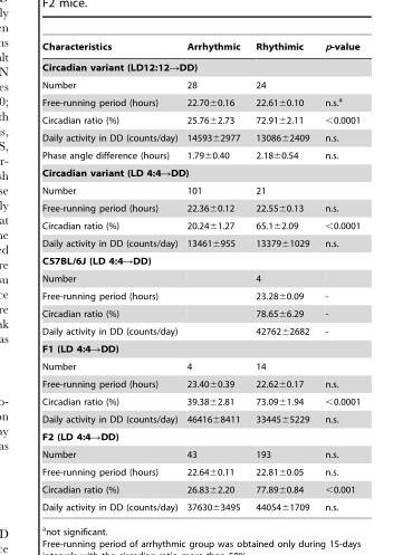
<table><thead><tr><td>Characteristics</td><td>Arrhythmic</td><td>Rhythimic</td><td>p-value</td></tr></thead><tbody><tr><td colspan="4">Circadian variant (LD12:12→DD)</td></tr><tr><td>Number</td><td>28</td><td>24</td><td></td></tr><tr><td>Free-running period (hours)</td><td>22.70±0.16</td><td>22.61±0.10</td><td>n.s.<sup>a</sup></td></tr><tr><td>Circadian ratio (%)</td><td>25.76±2.73</td><td>72.91±2.11</td><td>&lt;0.0001</td></tr><tr><td>Daily activity in DD (counts/day)</td><td>14593±2977</td><td>13086±2409</td><td>n.s.</td></tr><tr><td>Phase angle difference (hours)</td><td>1.79±0.40</td><td>2.18±0.54</td><td>n.s.</td></tr><tr><td colspan="4">Circadian variant (LD 4:4→DD)</td></tr><tr><td>Number</td><td>101</td><td>21</td><td></td></tr><tr><td>Free-running period (hours)</td><td>22.36±0.12</td><td>22.55±0.13</td><td>n.s.</td></tr><tr><td>Circadian ratio (%)</td><td>20.24±1.27</td><td>65.1±2.09</td><td>&lt;0.0001</td></tr><tr><td>Daily activity in DD (counts/day)</td><td>13461±955</td><td>13379±1029</td><td>n.s.</td></tr><tr><td colspan="4">C57BL/6J (LD 4:4→DD)</td></tr><tr><td>Number</td><td></td><td>4</td><td></td></tr><tr><td>Free-running period (hours)</td><td></td><td>23.28±0.09</td><td>-</td></tr><tr><td>Circadian ratio (%)</td><td></td><td>78.65±6.29</td><td>-</td></tr><tr><td>Daily activity in DD (counts/day)</td><td></td><td>42762±2682</td><td>-</td></tr><tr><td colspan="4">F1 (LD 4:4→DD)</td></tr><tr><td>Number</td><td>4</td><td>14</td><td></td></tr><tr><td>Free-running period (hours)</td><td>23.40±0.39</td><td>22.62±0.17</td><td>n.s.</td></tr><tr><td>Circadian ratio (%)</td><td>39.38±2.81</td><td>73.09±1.94</td><td>&lt;0.0001</td></tr><tr><td>Daily activity in DD (counts/day)</td><td>46416±8411</td><td>33445±5229</td><td>n.s.</td></tr><tr><td colspan="4">F2 (LD 4:4→DD)</td></tr><tr><td>Number</td><td>43</td><td>193</td><td>n.s.</td></tr><tr><td>Free-running period (hours)</td><td>22.64±0.11</td><td>22.81±0.05</td><td>n.s.</td></tr><tr><td>Circadian ratio (%)</td><td>26.83±2.20</td><td>77.89±0.84</td><td>&lt;0.001</td></tr><tr><td>Daily activity in DD (counts/day)</td><td>37630±3495</td><td>44054±1709</td><td>n.s.</td></tr></tbody></table>